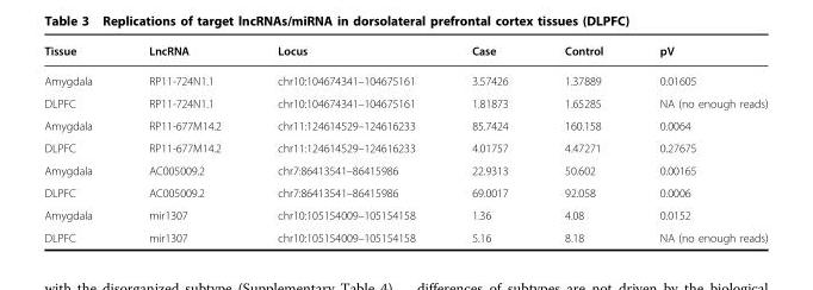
<table><thead><tr><td>Tissue</td><td>LncRNA</td><td>Locus</td><td>Case</td><td>Control</td><td>pV</td></tr></thead><tbody><tr><td>Amygdala</td><td>RP11-724N1.1</td><td>chr10:104674341–104675161</td><td>3.57426</td><td>1.37889</td><td>0.01605</td></tr><tr><td>DLPFC</td><td>RP11-724N1.1</td><td>chr10:104674341–104675161</td><td>1.81873</td><td>1.65285</td><td>NA (no enough reads)</td></tr><tr><td>Amygdala</td><td>RP11-677M14.2</td><td>chr11:124614529–124616233</td><td>85.7424</td><td>160.158</td><td>0.0064</td></tr><tr><td>DLPFC</td><td>RP11-677M14.2</td><td>chr11:124614529–124616233</td><td>4.01757</td><td>4.47271</td><td>0.27675</td></tr><tr><td>Amygdala</td><td>AC005009.2</td><td>chr7:86413541–86415986</td><td>22.9313</td><td>50.602</td><td>0.00165</td></tr><tr><td>DLPFC</td><td>AC005009.2</td><td>chr7:86413541–86415986</td><td>69.0017</td><td>92.058</td><td>0.0006</td></tr><tr><td>Amygdala</td><td>mir1307</td><td>chr10:105154009–105154158</td><td>1.36</td><td>4.08</td><td>0.0152</td></tr><tr><td>DLPFC</td><td>mir1307</td><td>chr10:105154009–105154158</td><td>5.16</td><td>8.18</td><td>NA (no enough reads)</td></tr></tbody></table>